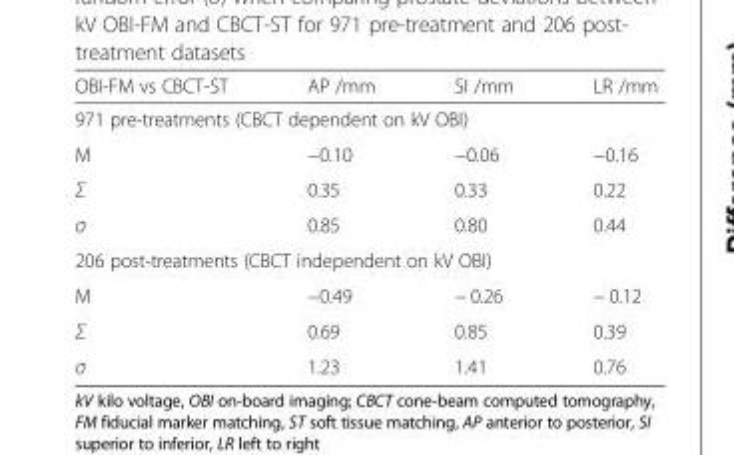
<table><thead><tr><td>OBI-FM vs CBCT-ST</td><td>AP /mm</td><td>SI /mm</td><td>LR /mm</td></tr></thead><tbody><tr><td colspan="4">971 pre-treatments (CBCT dependent on kV OBI)</td></tr><tr><td>M</td><td>−0.10</td><td>−0.06</td><td>−0.16</td></tr><tr><td>Σ</td><td>0.35</td><td>0.33</td><td>0.22</td></tr><tr><td>σ</td><td>0.85</td><td>0.80</td><td>0.44</td></tr><tr><td colspan="4">206 post-treatments (CBCT independent on kV OBI)</td></tr><tr><td>M</td><td>−0.49</td><td>− 0.26</td><td>− 0.12</td></tr><tr><td>Σ</td><td>0.69</td><td>0.85</td><td>0.39</td></tr><tr><td>σ</td><td>1.23</td><td>1.41</td><td>0.76</td></tr></tbody></table>